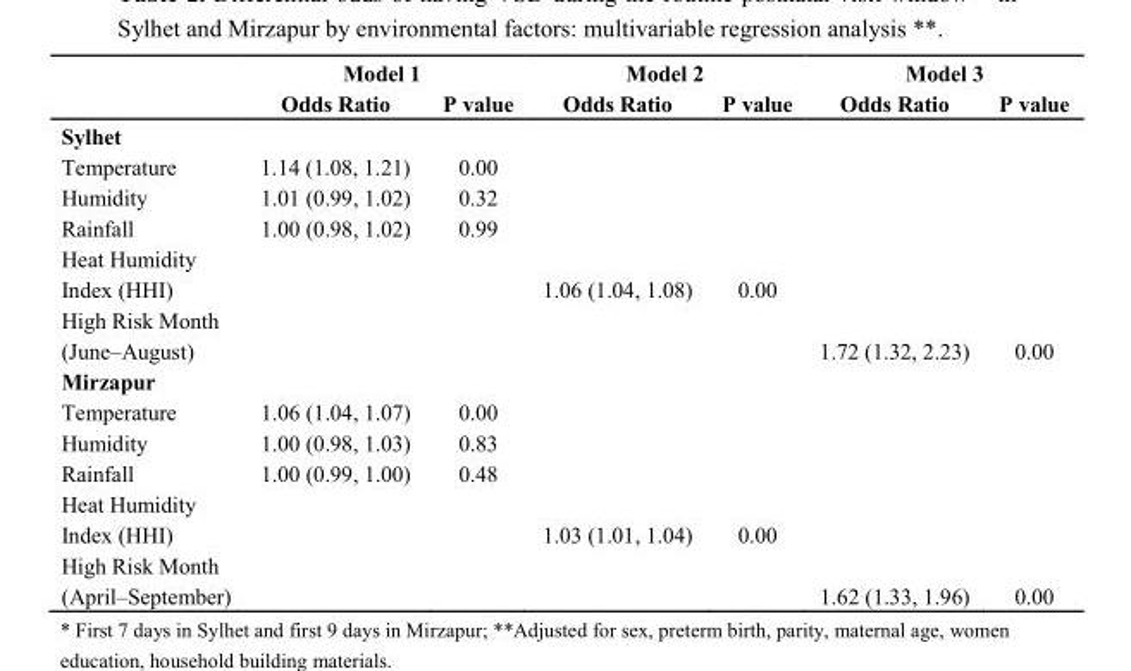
<table><thead><tr><td rowspan="2"></td><td colspan="2">Model 1</td><td colspan="2">Model 2</td><td colspan="2">Model 3</td></tr><tr><td>Odds Ratio</td><td>P value</td><td>Odds Ratio</td><td>P value</td><td>Odds Ratio</td><td>P value</td></tr></thead><tbody><tr><td colspan="7">Sylhet</td></tr><tr><td>Temperature</td><td>1.14 (1.08, 1.21)</td><td>0.00</td><td></td><td></td><td></td><td></td></tr><tr><td>Humidity</td><td>1.01 (0.99, 1.02)</td><td>0.32</td><td></td><td></td><td></td><td></td></tr><tr><td>Rainfall</td><td>1.00 (0.98, 1.02)</td><td>0.99</td><td></td><td></td><td></td><td></td></tr><tr><td colspan="7">Heat Humidity</td></tr><tr><td>Index (HHI)</td><td></td><td></td><td>1.06 (1.04, 1.08)</td><td>0.00</td><td></td><td></td></tr><tr><td colspan="7">High Risk Month</td></tr><tr><td>(June–August)</td><td></td><td></td><td></td><td></td><td>1.72 (1.32, 2.23)</td><td>0.00</td></tr><tr><td colspan="7">Mirzapur</td></tr><tr><td>Temperature</td><td>1.06 (1.04, 1.07)</td><td>0.00</td><td></td><td></td><td></td><td></td></tr><tr><td>Humidity</td><td>1.00 (0.98, 1.03)</td><td>0.83</td><td></td><td></td><td></td><td></td></tr><tr><td>Rainfall</td><td>1.00 (0.99, 1.00)</td><td>0.48</td><td></td><td></td><td></td><td></td></tr><tr><td colspan="7">Heat Humidity</td></tr><tr><td>Index (HHI)</td><td></td><td></td><td>1.03 (1.01, 1.04)</td><td>0.00</td><td></td><td></td></tr><tr><td colspan="7">High Risk Month</td></tr><tr><td>(April–September)</td><td></td><td></td><td></td><td></td><td>1.62 (1.33, 1.96)</td><td>0.00</td></tr></tbody></table>